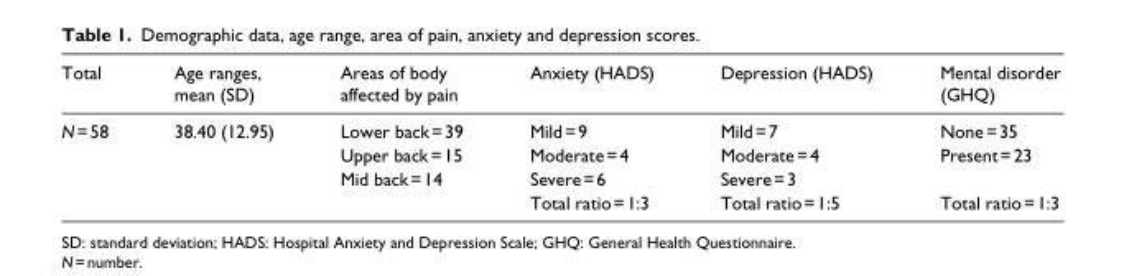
<table><thead><tr><td>Total</td><td>Age ranges, mean (SD)</td><td>Areas of body affected by pain</td><td>Anxiety (HADS)</td><td>Depression (HADS)</td><td>Mental disorder (GHQ)</td></tr></thead><tbody><tr><td rowspan="4">N = 58</td><td>38.40 (12.95)</td><td>Lower back = 39</td><td>Mild = 9</td><td>Mild = 7</td><td>None = 35</td></tr><tr><td></td><td>Upper back = 15</td><td>Moderate = 4</td><td>Moderate = 4</td><td>Present = 23</td></tr><tr><td></td><td>Mid back = 14</td><td>Severe = 6</td><td>Severe = 3</td><td></td></tr><tr><td></td><td></td><td>Total ratio = 1:3</td><td>Total ratio = 1:5</td><td>Total ratio = 1:3</td></tr></tbody></table>